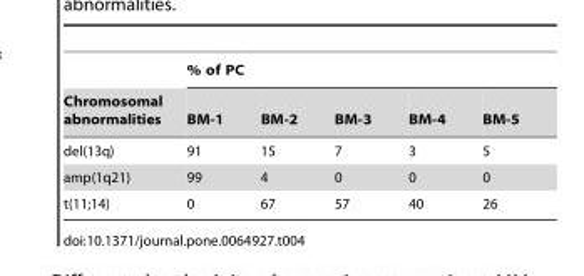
<table><thead><tr><td rowspan="2">Chromosomal abnormalities</td><td colspan="5">% of PC</td></tr><tr><td>BM-1</td><td>BM-2</td><td>BM-3</td><td>BM-4</td><td>BM-5</td></tr></thead><tbody><tr><td>del(13q)</td><td>91</td><td>15</td><td>7</td><td>3</td><td>5</td></tr><tr><td>amp(1q21)</td><td>99</td><td>4</td><td>0</td><td>0</td><td>0</td></tr><tr><td>t(11;14)</td><td>0</td><td>67</td><td>57</td><td>40</td><td>26</td></tr></tbody></table>